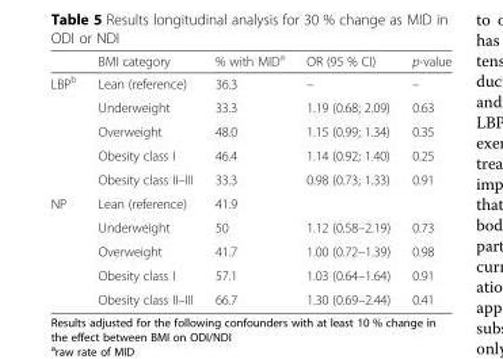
<table><thead><tr><td></td><td>BMI category</td><td>% with MID<sup>a</sup></td><td>OR (95 % CI)</td><td>p-value</td></tr></thead><tbody><tr><td rowspan="5">LBP<sup>b</sup></td><td>Lean (reference)</td><td>36.3</td><td>–</td><td>–</td></tr><tr><td>Underweight</td><td>33.3</td><td>1.19 (0.68; 2.09)</td><td>0.63</td></tr><tr><td>Overweight</td><td>48.0</td><td>1.15 (0.99; 1.34)</td><td>0.35</td></tr><tr><td>Obesity class I</td><td>46.4</td><td>1.14 (0.92; 1.40)</td><td>0.25</td></tr><tr><td>Obesity class II–III</td><td>33.3</td><td>0.98 (0.73; 1.33)</td><td>0.91</td></tr><tr><td rowspan="5">NP</td><td>Lean (reference)</td><td>41.9</td><td></td><td></td></tr><tr><td>Underweight</td><td>50</td><td>1.12 (0.58–2.19)</td><td>0.73</td></tr><tr><td>Overweight</td><td>41.7</td><td>1.00 (0.72–1.39)</td><td>0.98</td></tr><tr><td>Obesity class I</td><td>57.1</td><td>1.03 (0.64–1.64)</td><td>0.91</td></tr><tr><td>Obesity class II–III</td><td>66.7</td><td>1.30 (0.69–2.44)</td><td>0.41</td></tr></tbody></table>